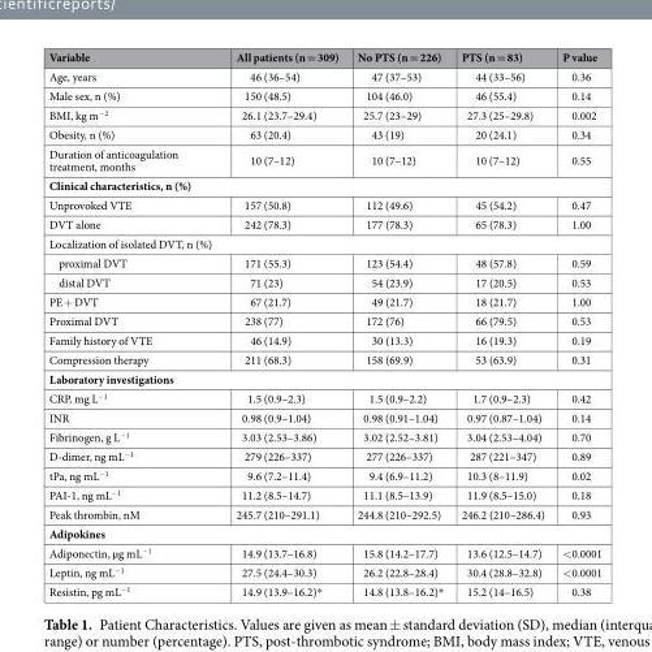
<table><thead><tr><td>Variable</td><td>All patients (n = 309)</td><td>No PTS (n = 226)</td><td>PTS (n = 83)</td><td>P value</td></tr></thead><tbody><tr><td>Age, years</td><td>46 (36–54)</td><td>47 (37–53)</td><td>44 (33–56)</td><td>0.36</td></tr><tr><td>Male sex, n (%)</td><td>150 (48.5)</td><td>104 (46.0)</td><td>46 (55.4)</td><td>0.14</td></tr><tr><td>BMI, kg m<sup>−2</sup></td><td>26.1 (23.7–29.4)</td><td>25.7 (23–29)</td><td>27.3 (25–29.8)</td><td>0.002</td></tr><tr><td>Obesity, n (%)</td><td>63 (20.4)</td><td>43 (19)</td><td>20 (24.1)</td><td>0.34</td></tr><tr><td>Duration of anticoagulation treatment, months</td><td>10 (7–12)</td><td>10 (7–12)</td><td>10 (7–12)</td><td>0.55</td></tr><tr><td colspan="5">Clinical characteristics, n (%)</td></tr><tr><td>Unprovoked VTE</td><td>157 (50.8)</td><td>112 (49.6)</td><td>45 (54.2)</td><td>0.47</td></tr><tr><td>DVT alone</td><td>242 (78.3)</td><td>177 (78.3)</td><td>65 (78.3)</td><td>1.00</td></tr><tr><td colspan="5">Localization of isolated DVT, n (%)</td></tr><tr><td>proximal DVT</td><td>171 (55.3)</td><td>123 (54.4)</td><td>48 (57.8)</td><td>0.59</td></tr><tr><td>distal DVT</td><td>71 (23)</td><td>54 (23.9)</td><td>17 (20.5)</td><td>0.53</td></tr><tr><td>PE + DVT</td><td>67 (21.7)</td><td>49 (21.7)</td><td>18 (21.7)</td><td>1.00</td></tr><tr><td>Proximal DVT</td><td>238 (77)</td><td>172 (76)</td><td>66 (79.5)</td><td>0.53</td></tr><tr><td>Family history of VTE</td><td>46 (14.9)</td><td>30 (13.3)</td><td>16 (19.3)</td><td>0.19</td></tr><tr><td>Compression therapy</td><td>211 (68.3)</td><td>158 (69.9)</td><td>53 (63.9)</td><td>0.31</td></tr><tr><td colspan="5">Laboratory investigations</td></tr><tr><td>CRP, mg L<sup>−1</sup></td><td>1.5 (0.9–2.3)</td><td>1.5 (0.9–2.2)</td><td>1.7 (0.9–2.3)</td><td>0.42</td></tr><tr><td>INR</td><td>0.98 (0.9–1.04)</td><td>0.98 (0.91–1.04)</td><td>0.97 (0.87–1.04)</td><td>0.14</td></tr><tr><td>Fibrinogen, g L<sup>−1</sup></td><td>3.03 (2.53–3.86)</td><td>3.02 (2.52–3.81)</td><td>3.04 (2.53–4.04)</td><td>0.70</td></tr><tr><td>D-dimer, ng mL<sup>−1</sup></td><td>279 (226–337)</td><td>277 (226–337)</td><td>287 (221–347)</td><td>0.89</td></tr><tr><td>tPa, ng mL<sup>−1</sup></td><td>9.6 (7.2–11.4)</td><td>9.4 (6.9–11.2)</td><td>10.3 (8–11.9)</td><td>0.02</td></tr><tr><td>PAI-1, ng mL<sup>−1</sup></td><td>11.2 (8.5–14.7)</td><td>11.1 (8.5–13.9)</td><td>11.9 (8.5–15.0)</td><td>0.18</td></tr><tr><td>Peak thrombin, nM</td><td>245.7 (210–291.1)</td><td>244.8 (210–292.5)</td><td>246.2 (210–286.4)</td><td>0.93</td></tr><tr><td colspan="5">Adipokines</td></tr><tr><td>Adiponectin, µg mL<sup>−1</sup></td><td>14.9 (13.7–16.8)</td><td>15.8 (14.2–17.7)</td><td>13.6 (12.5–14.7)</td><td>&lt;0.0001</td></tr><tr><td>Leptin, ng mL<sup>−1</sup></td><td>27.5 (24.4–30.3)</td><td>26.2 (22.8–28.4)</td><td>30.4 (28.8–32.8)</td><td>&lt;0.0001</td></tr><tr><td>Resistin, pg mL<sup>−1</sup></td><td>14.9 (13.9–16.2)*</td><td>14.8 (13.8–16.2)*</td><td>15.2 (14–16.5)</td><td>0.38</td></tr></tbody></table>